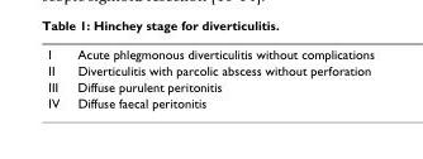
<table><tbody><tr><td>I</td><td>Acute phlegmonous diverticulitis without complications</td></tr><tr><td>II</td><td>Diverticulitis with parcolic abscess without perforation</td></tr><tr><td>III</td><td>Diffuse purulent peritonitis</td></tr><tr><td>IV</td><td>Diffuse faecal peritonitis</td></tr></tbody></table>